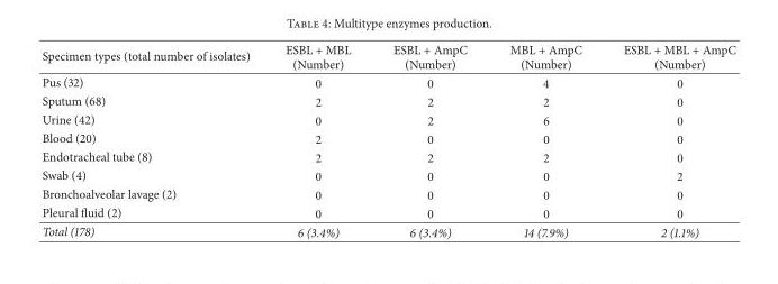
<table><thead><tr><td>Specimen types (total number of isolates)</td><td>ESBL + MBL (Number)</td><td>ESBL + AmpC (Number)</td><td>MBL + AmpC (Number)</td><td>ESBL + MBL + AmpC (Number)</td></tr></thead><tbody><tr><td>Pus (32)</td><td>0</td><td>0</td><td>4</td><td>0</td></tr><tr><td>Sputum (68)</td><td>2</td><td>2</td><td>2</td><td>0</td></tr><tr><td>Urine (42)</td><td>0</td><td>2</td><td>6</td><td>0</td></tr><tr><td>Blood (20)</td><td>2</td><td>0</td><td>0</td><td>0</td></tr><tr><td>Endotracheal tube (8)</td><td>2</td><td>2</td><td>2</td><td>0</td></tr><tr><td>Swab (4)</td><td>0</td><td>0</td><td>0</td><td>2</td></tr><tr><td>Bronchoalveolar lavage (2)</td><td>0</td><td>0</td><td>0</td><td>0</td></tr><tr><td>Pleural fluid (2)</td><td>0</td><td>0</td><td>0</td><td>0</td></tr><tr><td>Total (178)</td><td>6 (3.4%)</td><td>6 (3.4%)</td><td>14 (7.9%)</td><td>2 (1.1%)</td></tr></tbody></table>